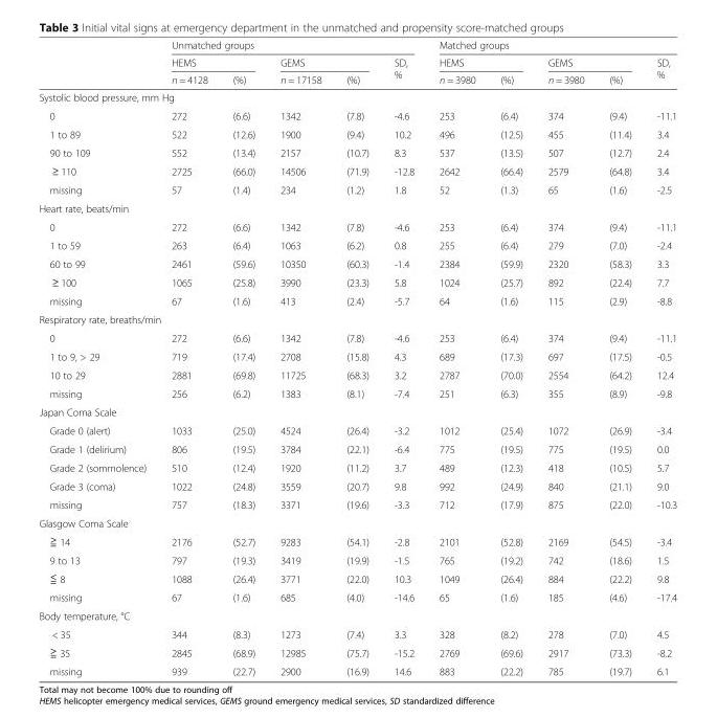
<table><thead><tr><td rowspan="3"></td><td colspan="5">Unmatched groups</td><td colspan="5">Matched groups</td></tr><tr><td colspan="2">HEMS</td><td colspan="2">GEMS</td><td rowspan="2">SD, %</td><td colspan="2">HEMS</td><td colspan="2">GEMS</td><td rowspan="2">SD, %</td></tr><tr><td>n = 4128</td><td>(%)</td><td>n = 17158</td><td>(%)</td><td>n = 3980</td><td>(%)</td><td>n = 3980</td><td>(%)</td></tr></thead><tbody><tr><td colspan="11">Systolic blood pressure, mm Hg</td></tr><tr><td>0</td><td>272</td><td>(6.6)</td><td>1342</td><td>(7.8)</td><td>-4.6</td><td>253</td><td>(6.4)</td><td>374</td><td>(9.4)</td><td>-11.1</td></tr><tr><td>1 to 89</td><td>522</td><td>(12.6)</td><td>1900</td><td>(9.4)</td><td>10.2</td><td>496</td><td>(12.5)</td><td>455</td><td>(11.4)</td><td>3.4</td></tr><tr><td>90 to 109</td><td>552</td><td>(13.4)</td><td>2157</td><td>(10.7)</td><td>8.3</td><td>537</td><td>(13.5)</td><td>507</td><td>(12.7)</td><td>2.4</td></tr><tr><td>≥ 110</td><td>2725</td><td>(66.0)</td><td>14506</td><td>(71.9)</td><td>-12.8</td><td>2642</td><td>(66.4)</td><td>2579</td><td>(64.8)</td><td>3.4</td></tr><tr><td>missing</td><td>57</td><td>(1.4)</td><td>234</td><td>(1.2)</td><td>1.8</td><td>52</td><td>(1.3)</td><td>65</td><td>(1.6)</td><td>-2.5</td></tr><tr><td colspan="11">Heart rate, beats/min</td></tr><tr><td>0</td><td>272</td><td>(6.6)</td><td>1342</td><td>(7.8)</td><td>-4.6</td><td>253</td><td>(6.4)</td><td>374</td><td>(9.4)</td><td>-11.1</td></tr><tr><td>1 to 59</td><td>263</td><td>(6.4)</td><td>1063</td><td>(6.2)</td><td>0.8</td><td>255</td><td>(6.4)</td><td>279</td><td>(7.0)</td><td>-2.4</td></tr><tr><td>60 to 99</td><td>2461</td><td>(59.6)</td><td>10350</td><td>(60.3)</td><td>-1.4</td><td>2384</td><td>(59.9)</td><td>2320</td><td>(58.3)</td><td>3.3</td></tr><tr><td>≥ 100</td><td>1065</td><td>(25.8)</td><td>3990</td><td>(23.3)</td><td>5.8</td><td>1024</td><td>(25.7)</td><td>892</td><td>(22.4)</td><td>7.7</td></tr><tr><td>missing</td><td>67</td><td>(1.6)</td><td>413</td><td>(2.4)</td><td>-5.7</td><td>64</td><td>(1.6)</td><td>115</td><td>(2.9)</td><td>-8.8</td></tr><tr><td colspan="11">Respiratory rate, breaths/min</td></tr><tr><td>0</td><td>272</td><td>(6.6)</td><td>1342</td><td>(7.8)</td><td>-4.6</td><td>253</td><td>(6.4)</td><td>374</td><td>(9.4)</td><td>-11.1</td></tr><tr><td>1 to 9, &gt; 29</td><td>719</td><td>(17.4)</td><td>2708</td><td>(15.8)</td><td>4.3</td><td>689</td><td>(17.3)</td><td>697</td><td>(17.5)</td><td>-0.5</td></tr><tr><td>10 to 29</td><td>2881</td><td>(69.8)</td><td>11725</td><td>(68.3)</td><td>3.2</td><td>2787</td><td>(70.0)</td><td>2554</td><td>(64.2)</td><td>12.4</td></tr><tr><td>missing</td><td>256</td><td>(6.2)</td><td>1383</td><td>(8.1)</td><td>-7.4</td><td>251</td><td>(6.3)</td><td>355</td><td>(8.9)</td><td>-9.8</td></tr><tr><td colspan="11">Japan Coma Scale</td></tr><tr><td>Grade 0 (alert)</td><td>1033</td><td>(25.0)</td><td>4524</td><td>(26.4)</td><td>-3.2</td><td>1012</td><td>(25.4)</td><td>1072</td><td>(26.9)</td><td>-3.4</td></tr><tr><td>Grade 1 (delirium)</td><td>806</td><td>(19.5)</td><td>3784</td><td>(22.1)</td><td>-6.4</td><td>775</td><td>(19.5)</td><td>775</td><td>(19.5)</td><td>0.0</td></tr><tr><td>Grade 2 (sommolence)</td><td>510</td><td>(12.4)</td><td>1920</td><td>(11.2)</td><td>3.7</td><td>489</td><td>(12.3)</td><td>418</td><td>(10.5)</td><td>5.7</td></tr><tr><td>Grade 3 (coma)</td><td>1022</td><td>(24.8)</td><td>3559</td><td>(20.7)</td><td>9.8</td><td>992</td><td>(24.9)</td><td>840</td><td>(21.1)</td><td>9.0</td></tr><tr><td>missing</td><td>757</td><td>(18.3)</td><td>3371</td><td>(19.6)</td><td>-3.3</td><td>712</td><td>(17.9)</td><td>875</td><td>(22.0)</td><td>-10.3</td></tr><tr><td colspan="11">Glasgow Coma Scale</td></tr><tr><td>≧ 14</td><td>2176</td><td>(52.7)</td><td>9283</td><td>(54.1)</td><td>-2.8</td><td>2101</td><td>(52.8)</td><td>2169</td><td>(54.5)</td><td>-3.4</td></tr><tr><td>9 to 13</td><td>797</td><td>(19.3)</td><td>3419</td><td>(19.9)</td><td>-1.5</td><td>765</td><td>(19.2)</td><td>742</td><td>(18.6)</td><td>1.5</td></tr><tr><td>≦ 8</td><td>1088</td><td>(26.4)</td><td>3771</td><td>(22.0)</td><td>10.3</td><td>1049</td><td>(26.4)</td><td>884</td><td>(22.2)</td><td>9.8</td></tr><tr><td>missing</td><td>67</td><td>(1.6)</td><td>685</td><td>(4.0)</td><td>-14.6</td><td>65</td><td>(1.6)</td><td>185</td><td>(4.6)</td><td>-17.4</td></tr><tr><td colspan="11">Body temperature, °C</td></tr><tr><td>&lt; 35</td><td>344</td><td>(8.3)</td><td>1273</td><td>(7.4)</td><td>3.3</td><td>328</td><td>(8.2)</td><td>278</td><td>(7.0)</td><td>4.5</td></tr><tr><td>≧ 35</td><td>2845</td><td>(68.9)</td><td>12985</td><td>(75.7)</td><td>-15.2</td><td>2769</td><td>(69.6)</td><td>2917</td><td>(73.3)</td><td>-8.2</td></tr><tr><td>missing</td><td>939</td><td>(22.7)</td><td>2900</td><td>(16.9)</td><td>14.6</td><td>883</td><td>(22.2)</td><td>785</td><td>(19.7)</td><td>6.1</td></tr></tbody></table>